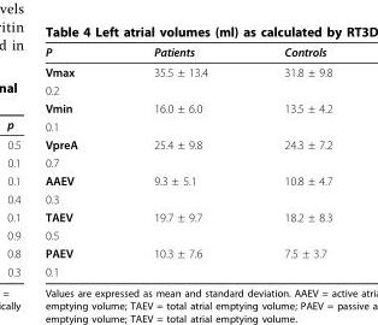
<table><thead><tr><td>P</td><td>Patients</td><td>Controls</td></tr></thead><tbody><tr><td>Vmax</td><td>35.5 ± 13.4</td><td>31.8 ± 9.8</td></tr><tr><td colspan="3">0.2</td></tr><tr><td>Vmin</td><td>16.0 ± 6.0</td><td>13.5 ± 4.2</td></tr><tr><td colspan="3">0.1</td></tr><tr><td>VpreA</td><td>25.4 ± 9.8</td><td>24.3 ± 7.2</td></tr><tr><td colspan="3">0.7</td></tr><tr><td>AAEV</td><td>9.3 ± 5.1</td><td>10.8 ± 4.7</td></tr><tr><td colspan="3">0.3</td></tr><tr><td>TAEV</td><td>19.7 ± 9.7</td><td>18.2 ± 8.3</td></tr><tr><td colspan="3">0.5</td></tr><tr><td>PAEV</td><td>10.3 ± 7.6</td><td>7.5 ± 3.7</td></tr><tr><td>0.1</td><td></td><td></td></tr></tbody></table>